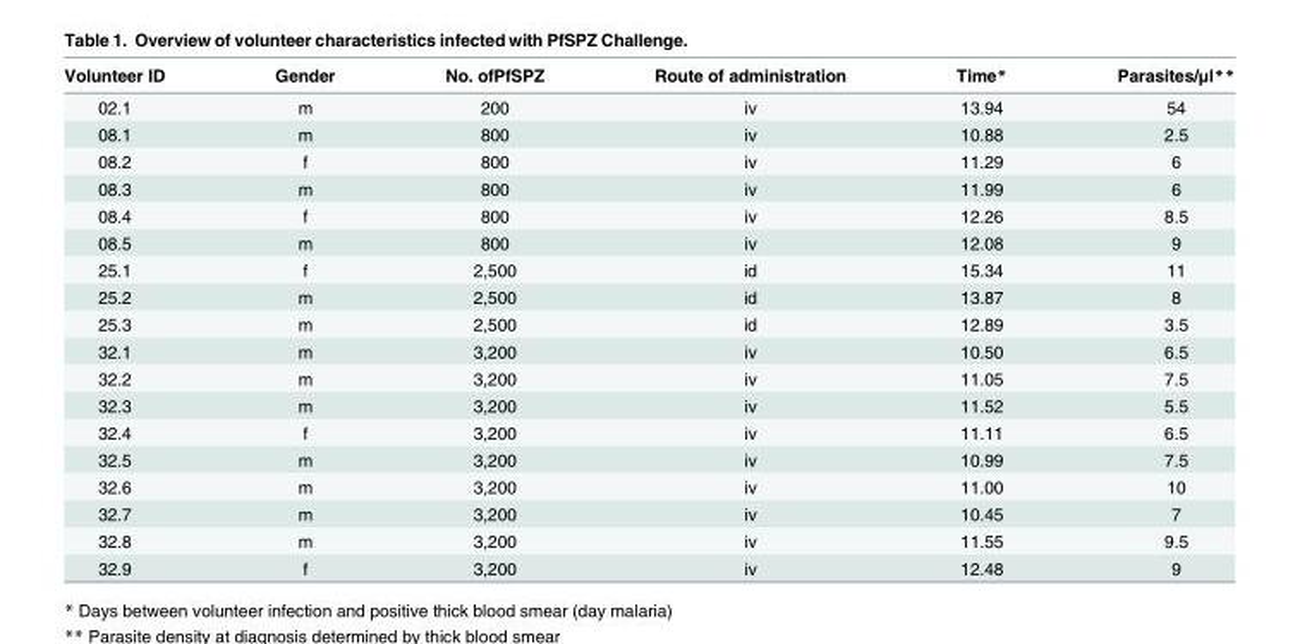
<table><thead><tr><td>Volunteer ID</td><td>Gender</td><td>No. ofPfSPZ</td><td>Route of administration</td><td>Time*</td><td>Parasites/μl**</td></tr></thead><tbody><tr><td>02.1</td><td>m</td><td>200</td><td>iv</td><td>13.94</td><td>54</td></tr><tr><td>08.1</td><td>m</td><td>800</td><td>iv</td><td>10.88</td><td>2.5</td></tr><tr><td>08.2</td><td>f</td><td>800</td><td>iv</td><td>11.29</td><td>6</td></tr><tr><td>08.3</td><td>m</td><td>800</td><td>iv</td><td>11.99</td><td>6</td></tr><tr><td>08.4</td><td>f</td><td>800</td><td>iv</td><td>12.26</td><td>8.5</td></tr><tr><td>08.5</td><td>m</td><td>800</td><td>iv</td><td>12.08</td><td>9</td></tr><tr><td>25.1</td><td>f</td><td>2,500</td><td>id</td><td>15.34</td><td>11</td></tr><tr><td>25.2</td><td>m</td><td>2,500</td><td>id</td><td>13.87</td><td>8</td></tr><tr><td>25.3</td><td>m</td><td>2,500</td><td>id</td><td>12.89</td><td>3.5</td></tr><tr><td>32.1</td><td>m</td><td>3,200</td><td>iv</td><td>10.50</td><td>6.5</td></tr><tr><td>32.2</td><td>m</td><td>3,200</td><td>iv</td><td>11.05</td><td>7.5</td></tr><tr><td>32.3</td><td>m</td><td>3,200</td><td>iv</td><td>11.52</td><td>5.5</td></tr><tr><td>32.4</td><td>f</td><td>3,200</td><td>iv</td><td>11.11</td><td>6.5</td></tr><tr><td>32.5</td><td>m</td><td>3,200</td><td>iv</td><td>10.99</td><td>7.5</td></tr><tr><td>32.6</td><td>m</td><td>3,200</td><td>iv</td><td>11.00</td><td>10</td></tr><tr><td>32.7</td><td>m</td><td>3,200</td><td>iv</td><td>10.45</td><td>7</td></tr><tr><td>32.8</td><td>m</td><td>3,200</td><td>iv</td><td>11.55</td><td>9.5</td></tr><tr><td>32.9</td><td>f</td><td>3,200</td><td>iv</td><td>12.48</td><td>9</td></tr></tbody></table>